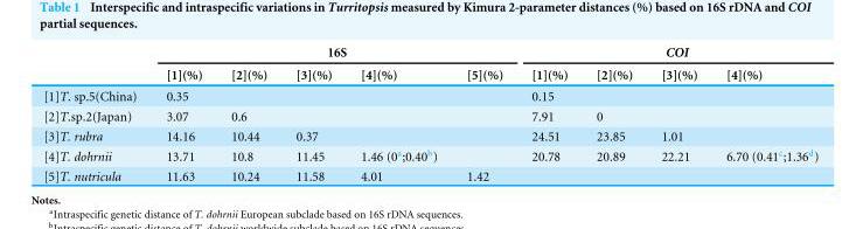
<table><thead><tr><td rowspan="2"></td><td colspan="5">16S</td><td colspan="4">COI</td></tr><tr><td>[1](%)</td><td>[2](%)</td><td>[3](%)</td><td>[4](%)</td><td>[5](%)</td><td>[1](%)</td><td>[2](%)</td><td>[3](%)</td><td>[4](%)</td></tr></thead><tbody><tr><td>[1]T. sp.5(China)</td><td>0.35</td><td></td><td></td><td></td><td></td><td>0.15</td><td></td><td></td><td></td></tr><tr><td>[2]T.sp.2(Japan)</td><td>3.07</td><td>0.6</td><td></td><td></td><td></td><td>7.91</td><td>0</td><td></td><td></td></tr><tr><td>[3]T. rubra</td><td>14.16</td><td>10.44</td><td>0.37</td><td></td><td></td><td>24.51</td><td>23.85</td><td>1.01</td><td></td></tr><tr><td>[4]T. dohrnii</td><td>13.71</td><td>10.8</td><td>11.45</td><td>1.46 (0<sup>a</sup>;0.40<sup>b</sup>)</td><td></td><td>20.78</td><td>20.89</td><td>22.21</td><td>6.70 (0.41<sup>c</sup>;1.36<sup>d</sup>)</td></tr><tr><td>[5]T. nutricula</td><td>11.63</td><td>10.24</td><td>11.58</td><td>4.01</td><td>1.42</td><td></td><td></td><td></td><td></td></tr></tbody></table>